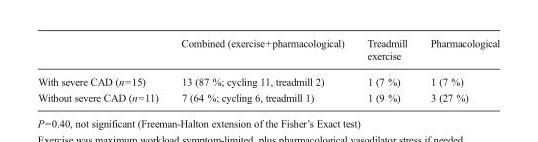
<table><thead><tr><td></td><td>Combined (exercise+pharmacological)</td><td>Treadmill exercise</td><td>Pharmacological</td></tr></thead><tbody><tr><td>With severe CAD (n=15)</td><td>13 (87 %; cycling 11, treadmill 2)</td><td>1 (7 %)</td><td>1 (7 %)</td></tr><tr><td>Without severe CAD (n=11)</td><td>7 (64 %; cycling 6, treadmill 1)</td><td>1 (9 %)</td><td>3 (27 %)</td></tr></tbody></table>